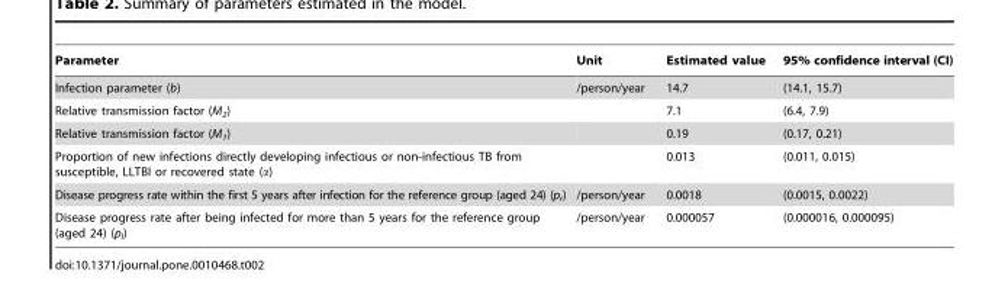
<table><thead><tr><td>Parameter</td><td>Unit</td><td>Estimated value</td><td>95% confidence interval (CI)</td></tr></thead><tbody><tr><td>Infection parameter (b)</td><td>/person/year</td><td>14.7</td><td>(14.1, 15.7)</td></tr><tr><td>Relative transmission factor (M<sub>2</sub>)</td><td></td><td>7.1</td><td>(6.4, 7.9)</td></tr><tr><td>Relative transmission factor (M<sub>1</sub>)</td><td></td><td>0.19</td><td>(0.17, 0.21)</td></tr><tr><td>Proportion of new infections directly developing infectious or non-infectious TB from susceptible, LLTBI or recovered state (α)</td><td></td><td>0.013</td><td>(0.011, 0.015)</td></tr><tr><td>Disease progress rate within the first 5 years after infection for the reference group (aged 24) (p<sub>r</sub>)</td><td>/person/year</td><td>0.0018</td><td>(0.0015, 0.0022)</td></tr><tr><td>Disease progress rate after being infected for more than 5 years for the reference group (aged 24) (p<sub>l</sub>)</td><td>/person/year</td><td>0.000057</td><td>(0.000016, 0.000095)</td></tr></tbody></table>